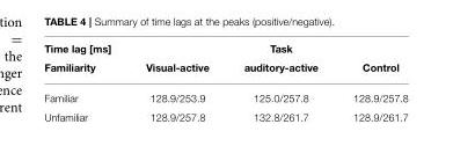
<table><thead><tr><td rowspan="2">Time lag [ms] Familiarity</td><td rowspan="2">Visual-active</td><td rowspan="2">Task auditory-active</td><td rowspan="2">Control</td></tr><tr></tr></thead><tbody><tr><td>Familiar</td><td>128.9/253.9</td><td>125.0/257.8</td><td>128.9/257.8</td></tr><tr><td>Unfamiliar</td><td>128.9/257.8</td><td>132.8/261.7</td><td>128.9/261.7</td></tr></tbody></table>